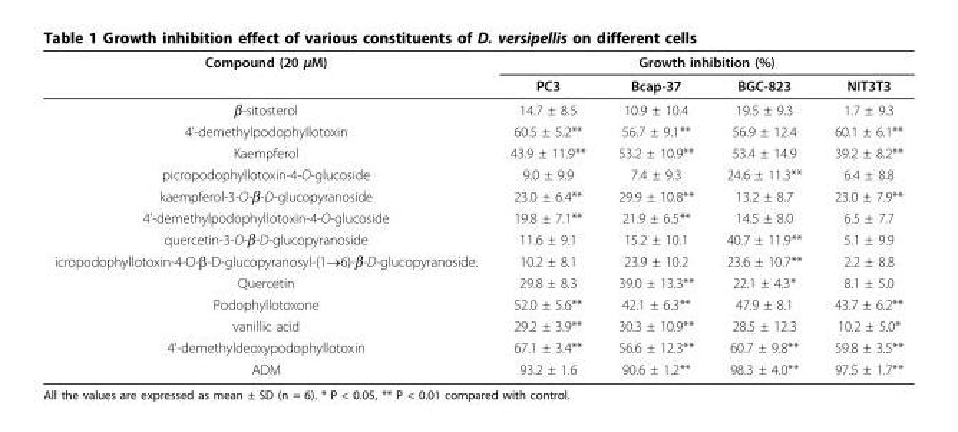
<table><thead><tr><td rowspan="2">Compound (20 μM)</td><td colspan="4">Growth inhibition (%)</td></tr><tr><td>PC3</td><td>Bcap-37</td><td>BGC-823</td><td>NIT3T3</td></tr></thead><tbody><tr><td>β-sitosterol</td><td>14.7 ± 8.5</td><td>10.9 ± 10.4</td><td>19.5 ± 9.3</td><td>1.7 ± 9.3</td></tr><tr><td>4’-demethylpodophyllotoxin</td><td>60.5 ± 5.2**</td><td>56.7 ± 9.1**</td><td>56.9 ± 12.4</td><td>60.1 ± 6.1**</td></tr><tr><td>Kaempferol</td><td>43.9 ± 11.9**</td><td>53.2 ± 10.9**</td><td>53.4 ± 14.9</td><td>39.2 ± 8.2**</td></tr><tr><td>picropodophyllotoxin-4-O-glucoside</td><td>9.0 ± 9.9</td><td>7.4 ± 9.3</td><td>24.6 ± 11.3**</td><td>6.4 ± 8.8</td></tr><tr><td>kaempferol-3-O-β-D-glucopyranoside</td><td>23.0 ± 6.4**</td><td>29.9 ± 10.8**</td><td>13.2 ± 8.7</td><td>23.0 ± 7.9**</td></tr><tr><td>4’-demethylpodophyllotoxin-4-O-glucoside</td><td>19.8 ± 7.1**</td><td>21.9 ± 6.5**</td><td>14.5 ± 8.0</td><td>6.5 ± 7.7</td></tr><tr><td>quercetin-3-O-β-D-glucopyranoside</td><td>11.6 ± 9.1</td><td>15.2 ± 10.1</td><td>40.7 ± 11.9**</td><td>5.1 ± 9.9</td></tr><tr><td>icropodophyllotoxin-4-O-β-D-glucopyranosyl-(1→6)-β-D-glucopyranoside.</td><td>10.2 ± 8.1</td><td>23.9 ± 10.2</td><td>23.6 ± 10.7**</td><td>2.2 ± 8.8</td></tr><tr><td>Quercetin</td><td>29.8 ± 8.3</td><td>39.0 ± 13.3**</td><td>22.1 ± 4.3*</td><td>8.1 ± 5.0</td></tr><tr><td>Podophyllotoxone</td><td>52.0 ± 5.6**</td><td>42.1 ± 6.3**</td><td>47.9 ± 8.1</td><td>43.7 ± 6.2**</td></tr><tr><td>vanillic acid</td><td>29.2 ± 3.9**</td><td>30.3 ± 10.9**</td><td>28.5 ± 12.3</td><td>10.2 ± 5.0*</td></tr><tr><td>4’-demethyldeoxypodophyllotoxin</td><td>67.1 ± 3.4**</td><td>56.6 ± 12.3**</td><td>60.7 ± 9.8**</td><td>59.8 ± 3.5**</td></tr><tr><td>ADM</td><td>93.2 ± 1.6</td><td>90.6 ± 1.2**</td><td>98.3 ± 4.0**</td><td>97.5 ± 1.7**</td></tr></tbody></table>